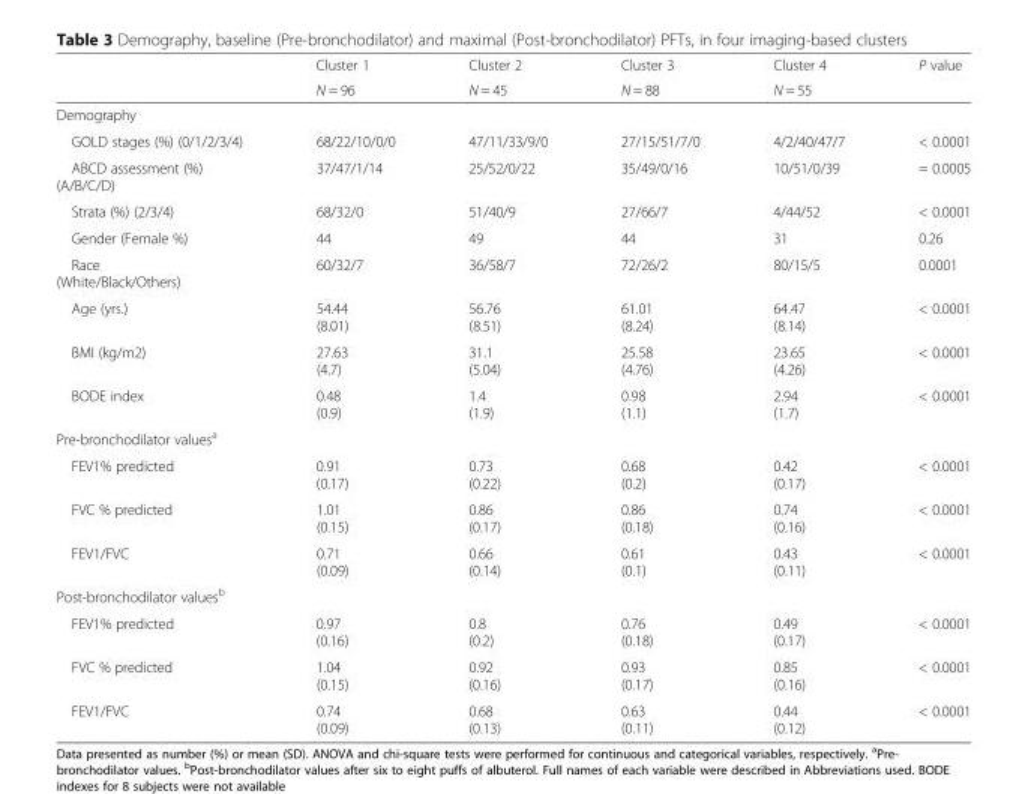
<table><thead><tr><td rowspan="2"></td><td rowspan="2">Cluster 1 N = 96</td><td rowspan="2">Cluster 2 N = 45</td><td rowspan="2">Cluster 3 N = 88</td><td rowspan="2">Cluster 4 N = 55</td><td rowspan="2">P value</td></tr><tr></tr></thead><tbody><tr><td colspan="6">Demography</td></tr><tr><td>GOLD stages (%) (0/1/2/3/4)</td><td>68/22/10/0/0</td><td>47/11/33/9/0</td><td>27/15/51/7/0</td><td>4/2/40/47/7</td><td>&lt; 0.0001</td></tr><tr><td>ABCD assessment (%) (A/B/C/D)</td><td>37/47/1/14</td><td>25/52/0/22</td><td>35/49/0/16</td><td>10/51/0/39</td><td>= 0.0005</td></tr><tr><td>Strata (%) (2/3/4)</td><td>68/32/0</td><td>51/40/9</td><td>27/66/7</td><td>4/44/52</td><td>&lt; 0.0001</td></tr><tr><td>Gender (Female %)</td><td>44</td><td>49</td><td>44</td><td>31</td><td>0.26</td></tr><tr><td>Race (White/Black/Others)</td><td>60/32/7</td><td>36/58/7</td><td>72/26/2</td><td>80/15/5</td><td>0.0001</td></tr><tr><td>Age (yrs.)</td><td>54.44 (8.01)</td><td>56.76 (8.51)</td><td>61.01 (8.24)</td><td>64.47 (8.14)</td><td>&lt; 0.0001</td></tr><tr><td>BMI (kg/m2)</td><td>27.63 (4.7)</td><td>31.1 (5.04)</td><td>25.58 (4.76)</td><td>23.65 (4.26)</td><td>&lt; 0.0001</td></tr><tr><td>BODE index</td><td>0.48 (0.9)</td><td>1.4 (1.9)</td><td>0.98 (1.1)</td><td>2.94 (1.7)</td><td>&lt; 0.0001</td></tr><tr><td colspan="6">Pre-bronchodilator values<sup>a</sup></td></tr><tr><td>FEV1% predicted</td><td>0.91 (0.17)</td><td>0.73 (0.22)</td><td>0.68 (0.2)</td><td>0.42 (0.17)</td><td>&lt; 0.0001</td></tr><tr><td>FVC % predicted</td><td>1.01 (0.15)</td><td>0.86 (0.17)</td><td>0.86 (0.18)</td><td>0.74 (0.16)</td><td>&lt; 0.0001</td></tr><tr><td>FEV1/FVC</td><td>0.71 (0.09)</td><td>0.66 (0.14)</td><td>0.61 (0.1)</td><td>0.43 (0.11)</td><td>&lt; 0.0001</td></tr><tr><td colspan="6">Post-bronchodilator values<sup>b</sup></td></tr><tr><td>FEV1% predicted</td><td>0.97 (0.16)</td><td>0.8 (0.2)</td><td>0.76 (0.18)</td><td>0.49 (0.17)</td><td>&lt; 0.0001</td></tr><tr><td>FVC % predicted</td><td>1.04 (0.15)</td><td>0.92 (0.16)</td><td>0.93 (0.17)</td><td>0.85 (0.16)</td><td>&lt; 0.0001</td></tr><tr><td>FEV1/FVC</td><td>0.74 (0.09)</td><td>0.68 (0.13)</td><td>0.63 (0.11)</td><td>0.44 (0.12)</td><td>&lt; 0.0001</td></tr></tbody></table>